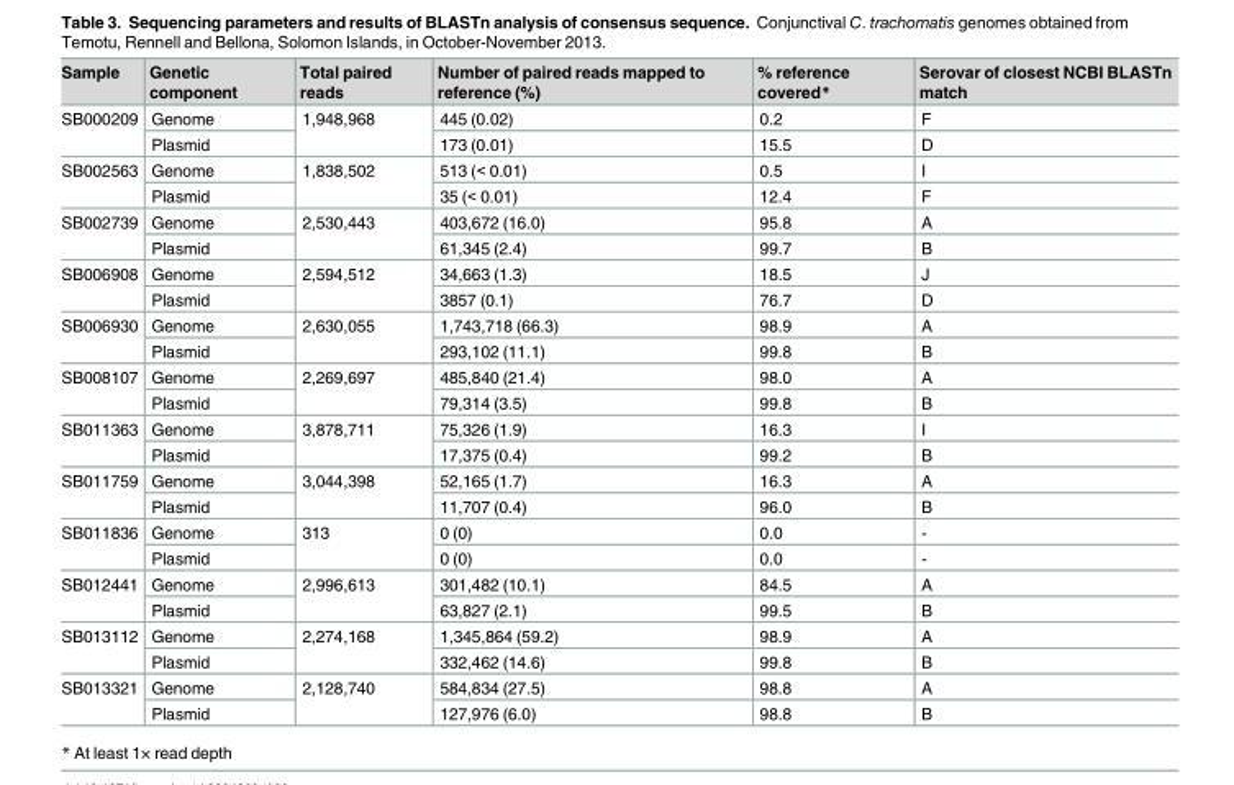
<table><thead><tr><td>Sample</td><td>Genetic component</td><td>Total paired reads</td><td>Number of paired reads mapped to reference (%)</td><td>% reference covered*</td><td>Serovar of closest NCBI BLASTn match</td></tr></thead><tbody><tr><td rowspan="2">SB000209</td><td>Genome</td><td rowspan="2">1,948,968</td><td>445 (0.02)</td><td>0.2</td><td>F</td></tr><tr><td>Plasmid</td><td>173 (0.01)</td><td>15.5</td><td>D</td></tr><tr><td rowspan="2">SB002563</td><td>Genome</td><td rowspan="2">1,838,502</td><td>513 (&lt; 0.01)</td><td>0.5</td><td>I</td></tr><tr><td>Plasmid</td><td>35 (&lt; 0.01)</td><td>12.4</td><td>F</td></tr><tr><td rowspan="2">SB002739</td><td>Genome</td><td rowspan="2">2,530,443</td><td>403,672 (16.0)</td><td>95.8</td><td>A</td></tr><tr><td>Plasmid</td><td>61,345 (2.4)</td><td>99.7</td><td>B</td></tr><tr><td rowspan="2">SB006908</td><td>Genome</td><td rowspan="2">2,594,512</td><td>34,663 (1.3)</td><td>18.5</td><td>J</td></tr><tr><td>Plasmid</td><td>3857 (0.1)</td><td>76.7</td><td>D</td></tr><tr><td rowspan="2">SB006930</td><td>Genome</td><td rowspan="2">2,630,055</td><td>1,743,718 (66.3)</td><td>98.9</td><td>A</td></tr><tr><td>Plasmid</td><td>293,102 (11.1)</td><td>99.8</td><td>B</td></tr><tr><td rowspan="2">SB008107</td><td>Genome</td><td rowspan="2">2,269,697</td><td>485,840 (21.4)</td><td>98.0</td><td>A</td></tr><tr><td>Plasmid</td><td>79,314 (3.5)</td><td>99.8</td><td>B</td></tr><tr><td rowspan="2">SB011363</td><td>Genome</td><td rowspan="2">3,878,711</td><td>75,326 (1.9)</td><td>16.3</td><td>I</td></tr><tr><td>Plasmid</td><td>17,375 (0.4)</td><td>99.2</td><td>B</td></tr><tr><td rowspan="2">SB011759</td><td>Genome</td><td rowspan="2">3,044,398</td><td>52,165 (1.7)</td><td>16.3</td><td>A</td></tr><tr><td>Plasmid</td><td>11,707 (0.4)</td><td>96.0</td><td>B</td></tr><tr><td rowspan="2">SB011836</td><td>Genome</td><td rowspan="2">313</td><td>0 (0)</td><td>0.0</td><td>-</td></tr><tr><td>Plasmid</td><td>0 (0)</td><td>0.0</td><td>-</td></tr><tr><td rowspan="2">SB012441</td><td>Genome</td><td rowspan="2">2,996,613</td><td>301,482 (10.1)</td><td>84.5</td><td>A</td></tr><tr><td>Plasmid</td><td>63,827 (2.1)</td><td>99.5</td><td>B</td></tr><tr><td rowspan="2">SB013112</td><td>Genome</td><td rowspan="2">2,274,168</td><td>1,345,864 (59.2)</td><td>98.9</td><td>A</td></tr><tr><td>Plasmid</td><td>332,462 (14.6)</td><td>99.8</td><td>B</td></tr><tr><td rowspan="2">SB013321</td><td>Genome</td><td rowspan="2">2,128,740</td><td>584,834 (27.5)</td><td>98.8</td><td>A</td></tr><tr><td>Plasmid</td><td>127,976 (6.0)</td><td>98.8</td><td>B</td></tr></tbody></table>